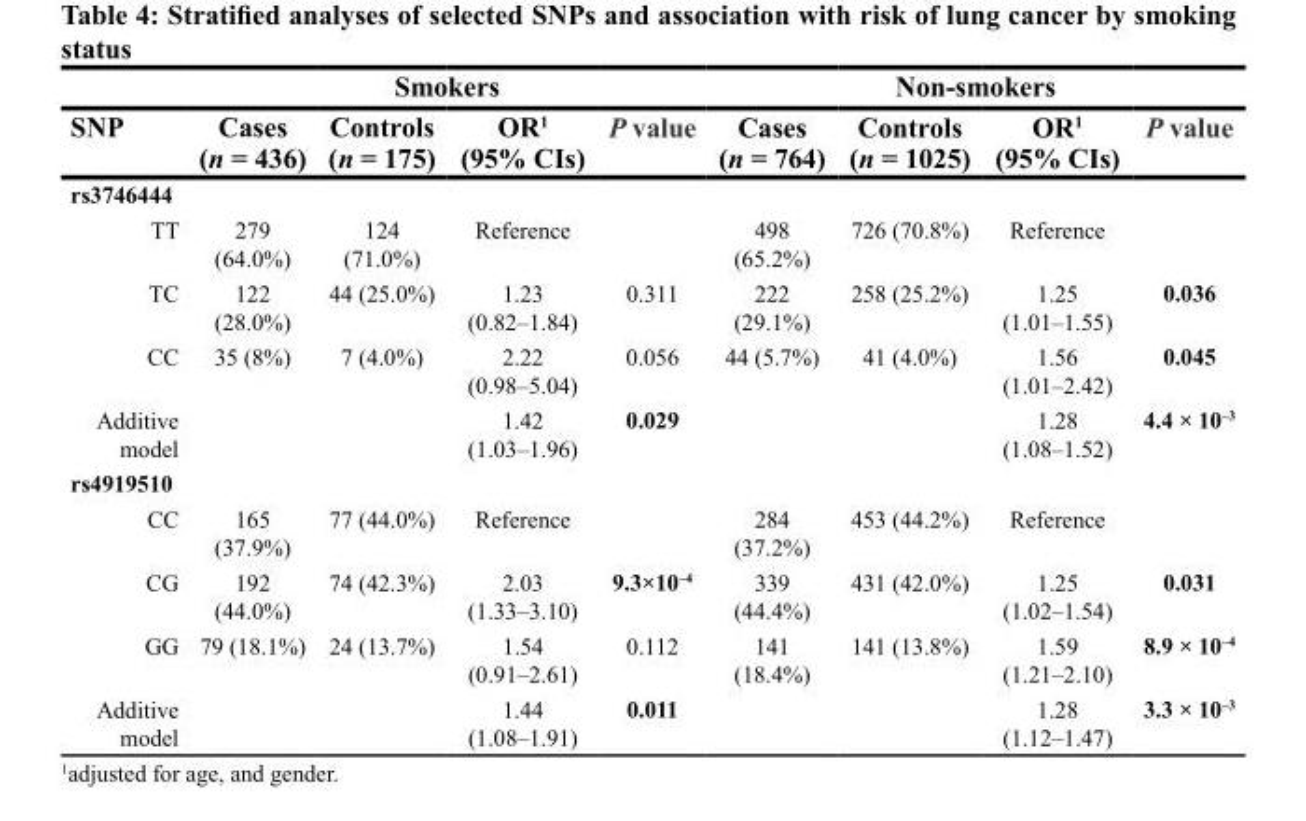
<table><thead><tr><td rowspan="2">snP</td><td colspan="4">smokers</td><td colspan="4">non-smokers</td></tr><tr><td>cases (n = 436)</td><td>controls (n = 175)</td><td>or<sup>1</sup> (95% cIs)</td><td>P value</td><td>cases (n = 764)</td><td>controls (n = 1025)</td><td>or<sup>1</sup> (95% cIs)</td><td>P value</td></tr></thead><tbody><tr><td colspan="9">rs3746444</td></tr><tr><td>TT</td><td>279 (64.0%)</td><td>124 (71.0%)</td><td>Reference</td><td></td><td>498 (65.2%)</td><td>726 (70.8%)</td><td>Reference</td><td></td></tr><tr><td>TC</td><td>122 (28.0%)</td><td>44 (25.0%)</td><td>1.23 (0.82–1.84)</td><td>0.311</td><td>222 (29.1%)</td><td>258 (25.2%)</td><td>1.25 (1.01–1.55)</td><td>0.036</td></tr><tr><td>CC</td><td>35 (8%)</td><td>7 (4.0%)</td><td>2.22 (0.98–5.04)</td><td>0.056</td><td>44 (5.7%)</td><td>41 (4.0%)</td><td>1.56 (1.01–2.42)</td><td>0.045</td></tr><tr><td>Additive model</td><td></td><td></td><td>1.42 (1.03–1.96)</td><td>0.029</td><td></td><td></td><td>1.28 (1.08–1.52)</td><td>4.4 × 10<sup>–3</sup></td></tr><tr><td colspan="9">rs4919510</td></tr><tr><td>CC</td><td>165 (37.9%)</td><td>77 (44.0%)</td><td>Reference</td><td></td><td>284 (37.2%)</td><td>453 (44.2%)</td><td>Reference</td><td></td></tr><tr><td>CG</td><td>192 (44.0%)</td><td>74 (42.3%)</td><td>2.03 (1.33–3.10)</td><td>9.3×10<sup>–4</sup></td><td>339 (44.4%)</td><td>431 (42.0%)</td><td>1.25 (1.02–1.54)</td><td>0.031</td></tr><tr><td>GG</td><td>79 (18.1%)</td><td>24 (13.7%)</td><td>1.54 (0.91–2.61)</td><td>0.112</td><td>141 (18.4%)</td><td>141 (13.8%)</td><td>1.59 (1.21–2.10)</td><td>8.9 × 10<sup>–4</sup></td></tr><tr><td>Additive model</td><td></td><td></td><td>1.44 (1.08–1.91)</td><td>0.011</td><td></td><td></td><td>1.28 (1.12–1.47)</td><td>3.3 × 10<sup>–3</sup></td></tr></tbody></table>